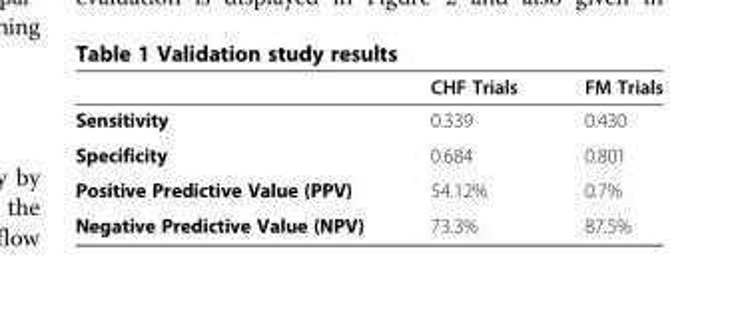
<table><thead><tr><td></td><td>CHF Trials</td><td>FM Trials</td></tr></thead><tbody><tr><td>Sensitivity</td><td>0.339</td><td>0.430</td></tr><tr><td>Specificity</td><td>0.684</td><td>0.801</td></tr><tr><td>Positive Predictive Value (PPV)</td><td>54.12%</td><td>0.7%</td></tr><tr><td>Negative Predictive Value (NPV)</td><td>73.3%</td><td>87.5%</td></tr></tbody></table>